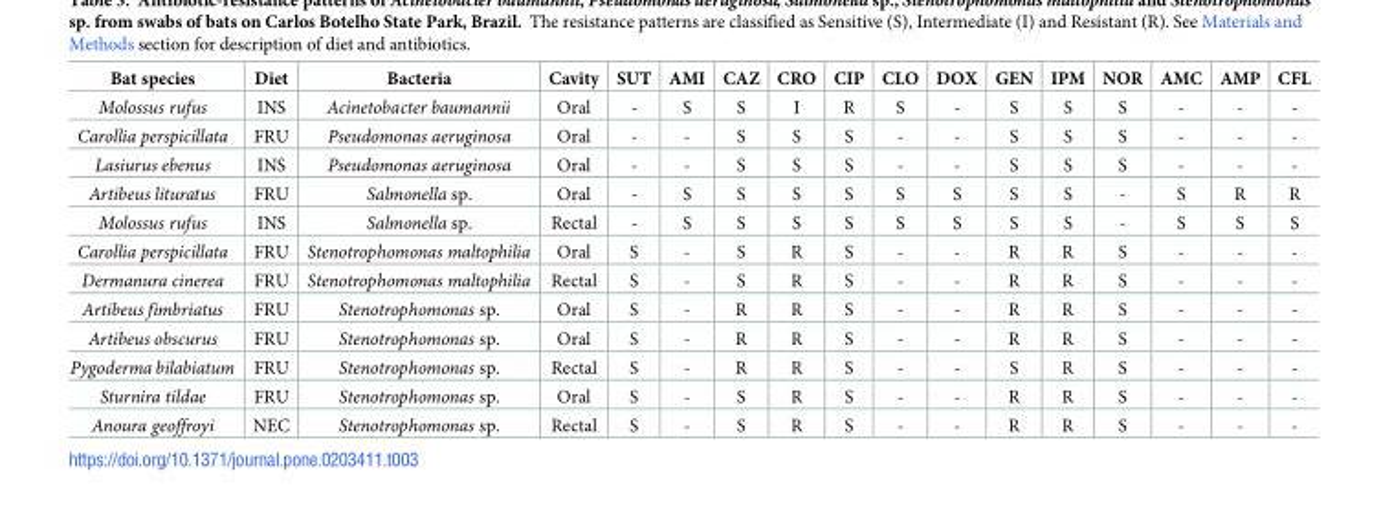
<table><thead><tr><td>Bat species</td><td>Diet</td><td>Bacteria</td><td>Cavity</td><td>SUT</td><td>AMI</td><td>CAZ</td><td>CRO</td><td>CIP</td><td>CLO</td><td>DOX</td><td>GEN</td><td>IPM</td><td>NOR</td><td>AMC</td><td>AMP</td><td>CFL</td></tr></thead><tbody><tr><td>Molossus rufus</td><td>INS</td><td>Acinetobacter baumannii</td><td>Oral</td><td>-</td><td>S</td><td>S</td><td>I</td><td>R</td><td>S</td><td>-</td><td>S</td><td>S</td><td>S</td><td>-</td><td>-</td><td>-</td></tr><tr><td>Carollia perspicillata</td><td>FRU</td><td>Pseudomonas aeruginosa</td><td>Oral</td><td>-</td><td>-</td><td>S</td><td>S</td><td>S</td><td>-</td><td>-</td><td>S</td><td>S</td><td>S</td><td>-</td><td>-</td><td>-</td></tr><tr><td>Lasiurus ebenus</td><td>INS</td><td>Pseudomonas aeruginosa</td><td>Oral</td><td>-</td><td>-</td><td>S</td><td>S</td><td>S</td><td>-</td><td>-</td><td>S</td><td>S</td><td>S</td><td>-</td><td>-</td><td>-</td></tr><tr><td>Artibeus lituratus</td><td>FRU</td><td>Salmonella sp.</td><td>Oral</td><td>-</td><td>S</td><td>S</td><td>S</td><td>S</td><td>S</td><td>S</td><td>S</td><td>S</td><td>-</td><td>S</td><td>R</td><td>R</td></tr><tr><td>Molossus rufus</td><td>INS</td><td>Salmonella sp.</td><td>Rectal</td><td>-</td><td>S</td><td>S</td><td>S</td><td>S</td><td>S</td><td>S</td><td>S</td><td>S</td><td>-</td><td>S</td><td>S</td><td>S</td></tr><tr><td>Carollia perspicillata</td><td>FRU</td><td>Stenotrophomonas maltophilia</td><td>Oral</td><td>S</td><td>-</td><td>S</td><td>R</td><td>S</td><td>-</td><td>-</td><td>R</td><td>R</td><td>S</td><td>-</td><td>-</td><td>-</td></tr><tr><td>Dermanura cinerea</td><td>FRU</td><td>Stenotrophomonas maltophilia</td><td>Rectal</td><td>S</td><td>-</td><td>S</td><td>R</td><td>S</td><td>-</td><td>-</td><td>R</td><td>R</td><td>S</td><td>-</td><td>-</td><td>-</td></tr><tr><td>Artibeus fimbriatus</td><td>FRU</td><td>Stenotrophomonas sp.</td><td>Oral</td><td>S</td><td>-</td><td>R</td><td>R</td><td>S</td><td>-</td><td>-</td><td>R</td><td>R</td><td>S</td><td>-</td><td>-</td><td>-</td></tr><tr><td>Artibeus obscurus</td><td>FRU</td><td>Stenotrophomonas sp.</td><td>Oral</td><td>S</td><td>-</td><td>R</td><td>R</td><td>S</td><td>-</td><td>-</td><td>R</td><td>R</td><td>S</td><td>-</td><td>-</td><td>-</td></tr><tr><td>Pygoderma bilabiatum</td><td>FRU</td><td>Stenotrophomonas sp.</td><td>Rectal</td><td>S</td><td>-</td><td>R</td><td>R</td><td>S</td><td>-</td><td>-</td><td>S</td><td>R</td><td>S</td><td>-</td><td>-</td><td>-</td></tr><tr><td>Sturnira tildae</td><td>FRU</td><td>Stenotrophomonas sp.</td><td>Oral</td><td>S</td><td>-</td><td>S</td><td>R</td><td>S</td><td>-</td><td>-</td><td>R</td><td>R</td><td>S</td><td>-</td><td>-</td><td>-</td></tr><tr><td>Anoura geoffroyi</td><td>NEC</td><td>Stenotrophomonas sp.</td><td>Rectal</td><td>S</td><td>-</td><td>S</td><td>R</td><td>S</td><td>-</td><td>-</td><td>R</td><td>R</td><td>S</td><td>-</td><td>-</td><td>-</td></tr></tbody></table>